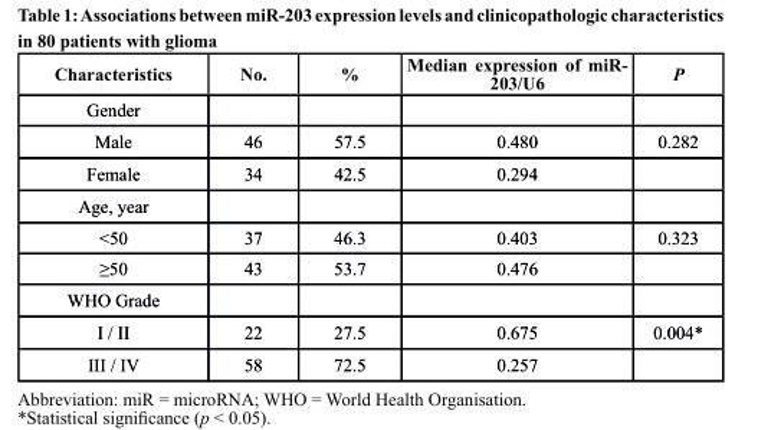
<table><thead><tr><td>characteristics</td><td>no.</td><td>%</td><td>Median expression of mir- 203/u6</td><td>P</td></tr></thead><tbody><tr><td colspan="5">Gender</td></tr><tr><td>Male</td><td>46</td><td>57.5</td><td>0.480</td><td>0.282</td></tr><tr><td>Female</td><td>34</td><td>42.5</td><td>0.294</td><td></td></tr><tr><td colspan="5">Age, year</td></tr><tr><td>&lt;50</td><td>37</td><td>46.3</td><td>0.403</td><td>0.323</td></tr><tr><td>≥50</td><td>43</td><td>53.7</td><td>0.476</td><td></td></tr><tr><td colspan="5">WHO Grade</td></tr><tr><td>I / II</td><td>22</td><td>27.5</td><td>0.675</td><td>0.004*</td></tr><tr><td>III / IV</td><td>58</td><td>72.5</td><td>0.257</td><td></td></tr></tbody></table>